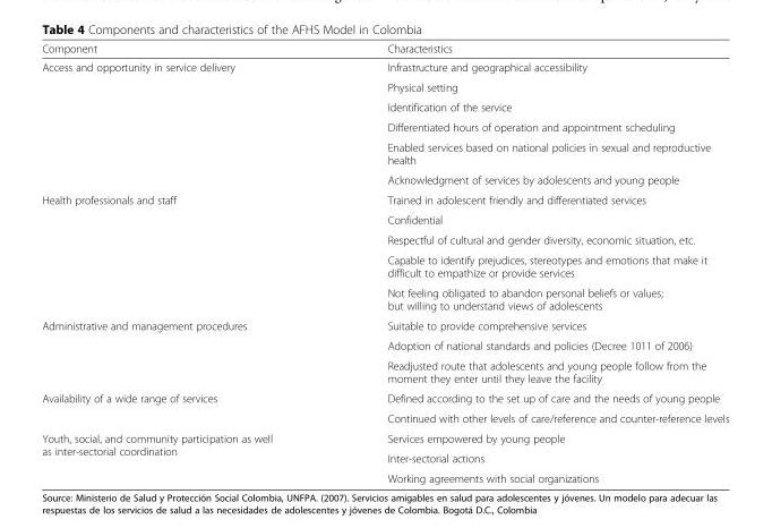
<table><thead><tr><td>Component</td><td>Characteristics</td></tr></thead><tbody><tr><td rowspan="6">Access and opportunity in service delivery</td><td>Infrastructure and geographical accessibility</td></tr><tr><td>Physical setting</td></tr><tr><td>Identification of the service</td></tr><tr><td>Differentiated hours of operation and appointment scheduling</td></tr><tr><td>Enabled services based on national policies in sexual and reproductive health</td></tr><tr><td>Acknowledgment of services by adolescents and young people</td></tr><tr><td rowspan="5">Health professionals and staff</td><td>Trained in adolescent friendly and differentiated services</td></tr><tr><td>Confidential</td></tr><tr><td>Respectful of cultural and gender diversity, economic situation, etc.</td></tr><tr><td>Capable to identify prejudices, stereotypes and emotions that make it difficult to empathize or provide services</td></tr><tr><td>Not feeling obligated to abandon personal beliefs or values; but willing to understand views of adolescents</td></tr><tr><td rowspan="3">Administrative and management procedures</td><td>Suitable to provide comprehensive services</td></tr><tr><td>Adoption of national standards and policies (Decree 1011 of 2006)</td></tr><tr><td>Readjusted route that adolescents and young people follow from the moment they enter until they leave the facility</td></tr><tr><td rowspan="2">Availability of a wide range of services</td><td>Defined according to the set up of care and the needs of young people</td></tr><tr><td>Continued with other levels of care/reference and counter-reference levels</td></tr><tr><td rowspan="3">Youth, social, and community participation as well as inter-sectorial coordination</td><td>Services empowered by young people</td></tr><tr><td>Inter-sectorial actions</td></tr><tr><td>Working agreements with social organizations</td></tr></tbody></table>